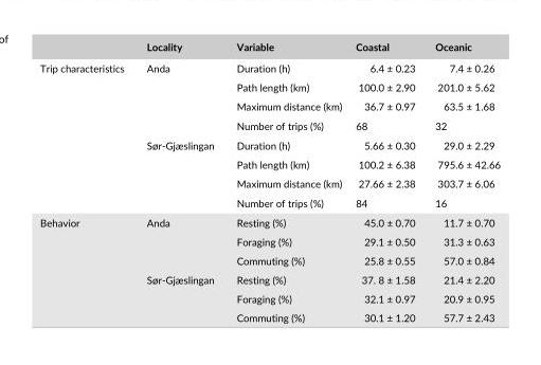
<table><thead><tr><td></td><td>Locality</td><td>Variable</td><td>Coastal</td><td>Oceanic</td></tr></thead><tbody><tr><td rowspan="8">Trip characteristics</td><td rowspan="4">Anda</td><td>Duration (h)</td><td>6.4 ± 0.23</td><td>7.4 ± 0.26</td></tr><tr><td>Path length (km)</td><td>100.0 ± 2.90</td><td>201.0 ± 5.62</td></tr><tr><td>Maximum distance (km)</td><td>36.7 ± 0.97</td><td>63.5 ± 1.68</td></tr><tr><td>Number of trips (%)</td><td>68</td><td>32</td></tr><tr><td rowspan="4">Sør- Gjæslingan</td><td>Duration (h)</td><td>5.66 ± 0.30</td><td>29.0 ± 2.29</td></tr><tr><td>Path length (km)</td><td>100.2 ± 6.38</td><td>795.6 ± 42.66</td></tr><tr><td>Maximum distance (km)</td><td>27.66 ± 2.38</td><td>303.7 ± 6.06</td></tr><tr><td>Number of trips (%)</td><td>84</td><td>16</td></tr><tr><td rowspan="6">Behavior</td><td rowspan="3">Anda</td><td>Resting (%)</td><td>45.0 ± 0.70</td><td>11.7 ± 0.70</td></tr><tr><td>Foraging (%)</td><td>29.1 ± 0.50</td><td>31.3 ± 0.63</td></tr><tr><td>Commuting (%)</td><td>25.8 ± 0.55</td><td>57.0 ± 0.84</td></tr><tr><td rowspan="3">Sør- Gjæslingan</td><td>Resting (%)</td><td>37. 8 ± 1.58</td><td>21.4 ± 2.20</td></tr><tr><td>Foraging (%)</td><td>32.1 ± 0.97</td><td>20.9 ± 0.95</td></tr><tr><td>Commuting (%)</td><td>30.1 ± 1.20</td><td>57.7 ± 2.43</td></tr></tbody></table>